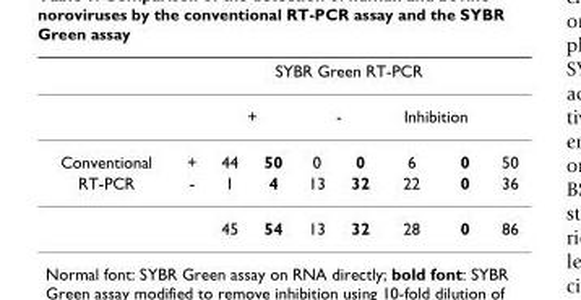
<table><thead><tr><td rowspan="3">Conventional</td><td rowspan="3">+</td><td colspan="6">SYBR Green RT-PCR</td><td rowspan="3">50</td></tr><tr><td colspan="2">+</td><td colspan="2">-</td><td colspan="2">Inhibition</td></tr><tr><td>44</td><td>50</td><td>0</td><td>0</td><td>6</td><td>0</td></tr></thead><tbody><tr><td rowspan="2">RT-PCR</td><td>-</td><td>1</td><td>4</td><td>13</td><td>32</td><td>22</td><td>0</td><td>36</td></tr><tr><td></td><td>45</td><td>54</td><td>13</td><td>32</td><td>28</td><td>0</td><td>86</td></tr></tbody></table>